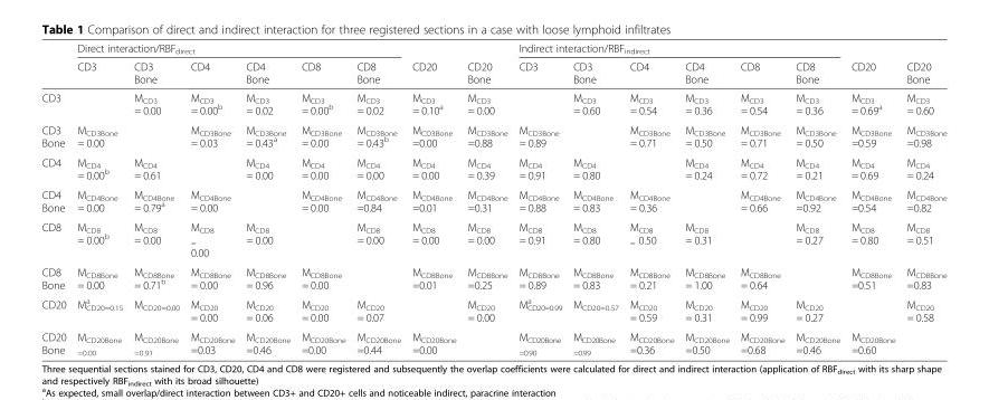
<table><thead><tr><td rowspan="2"></td><td colspan="6">Direct interaction/RBF<sub>direct</sub></td><td rowspan="2">CD20</td><td rowspan="2">CD20 Bone</td><td colspan="6">Indirect interaction/RBF<sub>indirect</sub></td><td rowspan="2">CD20</td><td rowspan="2">CD20 Bone</td></tr><tr><td>CD3</td><td>CD3 Bone</td><td>CD4</td><td>CD4 Bone</td><td>CD8</td><td>CD8 Bone</td><td>CD3</td><td>CD3 Bone</td><td>CD4</td><td>CD4 Bone</td><td>CD8</td><td>CD8 Bone</td></tr></thead><tbody><tr><td>CD3</td><td></td><td>M<sub>CD3</sub> = 0.00</td><td>M<sub>CD3</sub> = 0.00<sup>b</sup></td><td>M<sub>CD3</sub> = 0.02</td><td>M<sub>CD3</sub> = 0.00<sup>b</sup></td><td>M<sub>CD3</sub> = 0.02</td><td>M<sub>CD3</sub> = 0.10<sup>a</sup></td><td>M<sub>CD3</sub> = 0.00</td><td></td><td>M<sub>CD3</sub> = 0.60</td><td>M<sub>CD3</sub> = 0.54</td><td>M<sub>CD3</sub> = 0.36</td><td>M<sub>CD3</sub> = 0.54</td><td>M<sub>CD3</sub> = 0.36</td><td>M<sub>CD3</sub> = 0.69<sup>a</sup></td><td>M<sub>CD3</sub> = 0.60</td></tr><tr><td>CD3 Bone</td><td>M<sub>CD3Bone</sub> = 0.00</td><td></td><td>M<sub>CD3Bone</sub> = 0.03</td><td>M<sub>CD3Bone</sub> = 0.43<sup>a</sup></td><td>M<sub>CD3Bone</sub> = 0.00</td><td>M<sub>CD3Bone</sub> = 0.43<sup>b</sup></td><td>M<sub>CD3Bone</sub> =0.00</td><td>M<sub>CD3Bone</sub> =0.88</td><td>M<sub>CD3Bone</sub> = 0.89</td><td></td><td>M<sub>CD3Bone</sub> = 0.71</td><td>M<sub>CD3Bone</sub> = 0.50</td><td>M<sub>CD3Bone</sub> = 0.71</td><td>M<sub>CD3Bone</sub> = 0.50</td><td>M<sub>CD3Bone</sub> =0.59</td><td>M<sub>CD3Bone</sub> =0.98</td></tr><tr><td>CD4</td><td>M<sub>CD4</sub> = 0.00<sup>b</sup></td><td>M<sub>CD4</sub> = 0.61</td><td></td><td>M<sub>CD4</sub> = 0.00</td><td>M<sub>CD4</sub> = 0.00</td><td>M<sub>CD4</sub> = 0.00</td><td>M<sub>CD4</sub> = 0.00</td><td>M<sub>CD4</sub> = 0.39</td><td>M<sub>CD4</sub> = 0.91</td><td>M<sub>CD4</sub> = 0.80</td><td></td><td>M<sub>CD4</sub> = 0.24</td><td>M<sub>CD4</sub> = 0.72</td><td>M<sub>CD4</sub> = 0.21</td><td>M<sub>CD4</sub> = 0.69</td><td>M<sub>CD4</sub> = 0.24</td></tr><tr><td>CD4 Bone</td><td>M<sub>CD4Bone</sub> = 0.00</td><td>M<sub>CD4Bone</sub> = 0.79<sup>a</sup></td><td>M<sub>CD4Bone</sub> = 0.00</td><td></td><td>M<sub>CD4Bone</sub> = 0.00</td><td>M<sub>CD4Bone</sub> =0.84</td><td>M<sub>CD4Bone</sub> =0.01</td><td>M<sub>CD4Bone</sub> =0.31</td><td>M<sub>CD4Bone</sub> = 0.88</td><td>M<sub>CD4Bone</sub> = 0.83</td><td>M<sub>CD4Bone</sub> = 0.36</td><td></td><td>M<sub>CD4Bone</sub> = 0.66</td><td>M<sub>CD4Bone</sub> =0.92</td><td>M<sub>CD4Bone</sub> =0.54</td><td>M<sub>CD4Bone</sub> =0.82</td></tr><tr><td>CD8</td><td>M<sub>CD8</sub> = 0.00<sup>b</sup></td><td>M<sub>CD8</sub> = 0.00</td><td>M<sub>CD8 =</sub> 0.00</td><td>M<sub>CD8</sub> = 0.00</td><td></td><td>M<sub>CD8</sub> = 0.00</td><td>M<sub>CD8</sub> = 0.00</td><td>M<sub>CD8</sub> = 0.00</td><td>M<sub>CD8</sub> = 0.91</td><td>M<sub>CD8</sub> = 0.80</td><td>M<sub>CD8 =</sub> 0.50</td><td>M<sub>CD8</sub> = 0.31</td><td></td><td>M<sub>CD8</sub> = 0.27</td><td>M<sub>CD8</sub> = 0.80</td><td>M<sub>CD8</sub> = 0.51</td></tr><tr><td>CD8 Bone</td><td>M<sub>CD8Bone</sub> = 0.00</td><td>M<sub>CD8Bone</sub> = 0.71<sup>b</sup></td><td>M<sub>CD8Bone</sub> = 0.00</td><td>M<sub>CD8Bone</sub> = 0.96</td><td>M<sub>CD8Bone</sub> = 0.00</td><td></td><td>M<sub>CD8Bone</sub> =0.01</td><td>M<sub>CD8Bone</sub> =0.25</td><td>M<sub>CD8Bone</sub> = 0.89</td><td>M<sub>CD8Bone</sub> = 0.83</td><td>M<sub>CD8Bone</sub> = 0.21</td><td>M<sub>CD8Bone</sub> = 1.00</td><td>M<sub>CD8Bone</sub> = 0.64</td><td></td><td>M<sub>CD8Bone</sub> =0.51</td><td>M<sub>CD8Bone</sub> =0.83</td></tr><tr><td>CD20</td><td>M<sub>CD20=0.15</sub> <sup>a</sup></td><td>M<sub>CD20=0.00</sub></td><td>M<sub>CD20</sub> = 0.00</td><td>M<sub>CD20</sub> = 0.06</td><td>M<sub>CD20</sub> = 0.00</td><td>M<sub>CD20</sub> = 0.07</td><td></td><td>M<sub>CD20</sub> = 0.00</td><td>M<sub>CD20=0.99</sub> <sup>a</sup></td><td>M<sub>CD20=0.57</sub></td><td>M<sub>CD20</sub> = 0.59</td><td>M<sub>CD20</sub> = 0.31</td><td>M<sub>CD20</sub> = 0.99</td><td>M<sub>CD20</sub> = 0.27</td><td></td><td>M<sub>CD20</sub> = 0.58</td></tr><tr><td>CD20 Bone</td><td>M<sub>CD20Bone =0.00</sub></td><td>M<sub>CD20Bone =0.91</sub></td><td>M<sub>CD20Bone</sub> =0.03</td><td>M<sub>CD20Bone</sub> =0.46</td><td>M<sub>CD20Bone</sub> =0.00</td><td>M<sub>CD20Bone</sub> =0.44</td><td>M<sub>CD20Bone</sub> =0.00</td><td></td><td>M<sub>CD20Bone =0.90</sub></td><td>M<sub>CD20Bone =0.99</sub></td><td>M<sub>CD20Bone</sub> =0.36</td><td>M<sub>CD20Bone</sub> =0.50</td><td>M<sub>CD20Bone</sub> =0.68</td><td>M<sub>CD20Bone</sub> =0.46</td><td>M<sub>CD20Bone</sub> =0.60</td><td></td></tr></tbody></table>